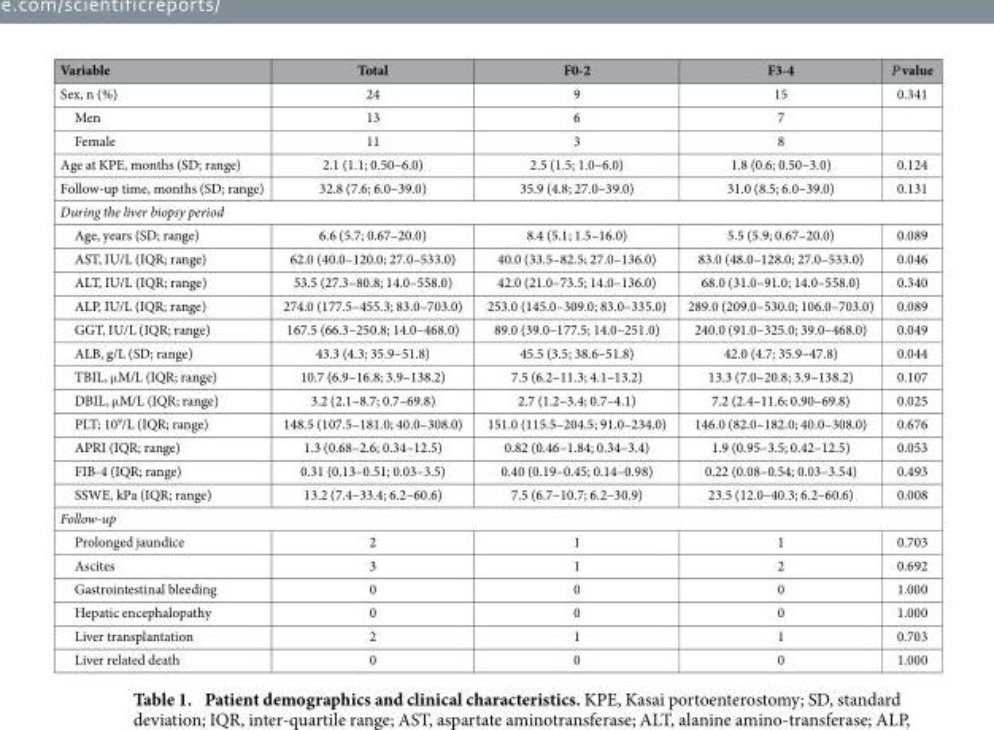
<table><thead><tr><td>Variable</td><td>Total</td><td>F0-2</td><td>F3-4</td><td>P value</td></tr></thead><tbody><tr><td>Sex, n (%)</td><td>24</td><td>9</td><td>15</td><td>0.341</td></tr><tr><td>Men</td><td>13</td><td>6</td><td>7</td><td></td></tr><tr><td>Female</td><td>11</td><td>3</td><td>8</td><td></td></tr><tr><td>Age at KPE, months (SD; range)</td><td>2.1 (1.1; 0.50–6.0)</td><td>2.5 (1.5; 1.0–6.0)</td><td>1.8 (0.6; 0.50–3.0)</td><td>0.124</td></tr><tr><td>Follow-up time, months (SD; range)</td><td>32.8 (7.6; 6.0–39.0)</td><td>35.9 (4.8; 27.0–39.0)</td><td>31.0 (8.5; 6.0–39.0)</td><td>0.131</td></tr><tr><td colspan="5">During the liver biopsy period</td></tr><tr><td>Age, years (SD; range)</td><td>6.6 (5.7; 0.67–20.0)</td><td>8.4 (5.1; 1.5–16.0)</td><td>5.5 (5.9; 0.67–20.0)</td><td>0.089</td></tr><tr><td>AST, IU/L (IQR; range)</td><td>62.0 (40.0–120.0; 27.0–533.0)</td><td>40.0 (33.5–82.5; 27.0–136.0)</td><td>83.0 (48.0–128.0; 27.0–533.0)</td><td>0.046</td></tr><tr><td>ALT, IU/L (IQR; range)</td><td>53.5 (27.3–80.8; 14.0–558.0)</td><td>42.0 (21.0–73.5; 14.0–136.0)</td><td>68.0 (31.0–91.0; 14.0–558.0)</td><td>0.340</td></tr><tr><td>ALP, IU/L (IQR; range)</td><td>274.0 (177.5–455.3; 83.0–703.0)</td><td>253.0 (145.0–309.0; 83.0–335.0)</td><td>289.0 (209.0–530.0; 106.0–703.0)</td><td>0.089</td></tr><tr><td>GGT, IU/L (IQR; range)</td><td>167.5 (66.3–250.8; 14.0–468.0)</td><td>89.0 (39.0–177.5; 14.0–251.0)</td><td>240.0 (91.0–325.0; 39.0–468.0)</td><td>0.049</td></tr><tr><td>ALB, g/L (SD; range)</td><td>43.3 (4.3; 35.9–51.8)</td><td>45.5 (3.5; 38.6–51.8)</td><td>42.0 (4.7; 35.9–47.8)</td><td>0.044</td></tr><tr><td>TBIL, μ M/L (IQR; range)</td><td>10.7 (6.9–16.8; 3.9–138.2)</td><td>7.5 (6.2–11.3; 4.1–13.2)</td><td>13.3 (7.0–20.8; 3.9–138.2)</td><td>0.107</td></tr><tr><td>DBIL, μ M/L (IQR; range)</td><td>3.2 (2.1–8.7; 0.7–69.8)</td><td>2.7 (1.2–3.4; 0.7–4.1)</td><td>7.2 (2.4–11.6; 0.90–69.8)</td><td>0.025</td></tr><tr><td>PLT; 10<sup>9</sup>/L (IQR; range)</td><td>148.5 (107.5–181.0; 40.0–308.0)</td><td>151.0 (115.5–204.5; 91.0–234.0)</td><td>146.0 (82.0–182.0; 40.0–308.0)</td><td>0.676</td></tr><tr><td>APRI (IQR; range)</td><td>1.3 (0.68–2.6; 0.34–12.5)</td><td>0.82 (0.46–1.84; 0.34–3.4)</td><td>1.9 (0.95–3.5; 0.42–12.5)</td><td>0.053</td></tr><tr><td>FIB-4 (IQR; range)</td><td>0.31 (0.13–0.51; 0.03–3.5)</td><td>0.40 (0.19–0.45; 0.14–0.98)</td><td>0.22 (0.08–0.54; 0.03–3.54)</td><td>0.493</td></tr><tr><td>SSWE, kPa (IQR; range)</td><td>13.2 (7.4–33.4; 6.2–60.6)</td><td>7.5 (6.7–10.7; 6.2–30.9)</td><td>23.5 (12.0–40.3; 6.2–60.6)</td><td>0.008</td></tr><tr><td colspan="5">Follow-up</td></tr><tr><td>Prolonged jaundice</td><td>2</td><td>1</td><td>1</td><td>0.703</td></tr><tr><td>Ascites</td><td>3</td><td>1</td><td>2</td><td>0.692</td></tr><tr><td>Gastrointestinal bleeding</td><td>0</td><td>0</td><td>0</td><td>1.000</td></tr><tr><td>Hepatic encephalopathy</td><td>0</td><td>0</td><td>0</td><td>1.000</td></tr><tr><td>Liver transplantation</td><td>2</td><td>1</td><td>1</td><td>0.703</td></tr><tr><td>Liver related death</td><td>0</td><td>0</td><td>0</td><td>1.000</td></tr></tbody></table>